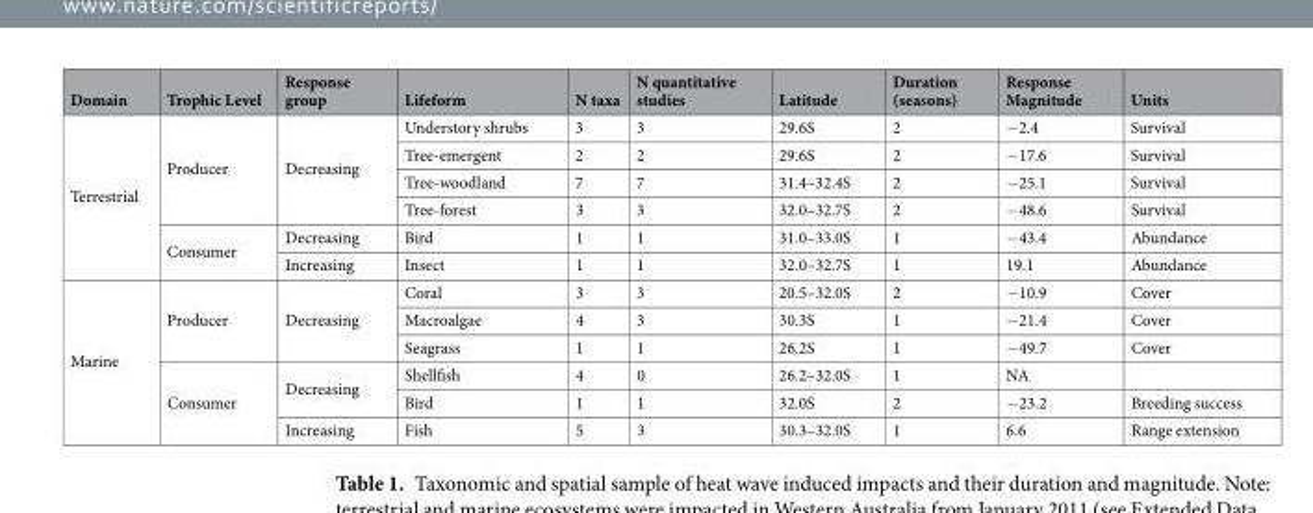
<table><thead><tr><td>Domain</td><td>Trophic Level</td><td>Response group</td><td>Lifeform</td><td>N taxa</td><td>N quantitative studies</td><td>Latitude</td><td>Duration (seasons)</td><td>Response Magnitude</td><td>Units</td></tr></thead><tbody><tr><td rowspan="6">Terrestrial</td><td rowspan="4">Producer</td><td rowspan="4">Decreasing</td><td>Understory shrubs</td><td>3</td><td>3</td><td>29.6S</td><td>2</td><td>−2.4</td><td>Survival</td></tr><tr><td>Tree-emergent</td><td>2</td><td>2</td><td>29.6S</td><td>2</td><td>−17.6</td><td>Survival</td></tr><tr><td>Tree-woodland</td><td>7</td><td>7</td><td>31.4–32.4S</td><td>2</td><td>−25.1</td><td>Survival</td></tr><tr><td>Tree-forest</td><td>3</td><td>3</td><td>32.0–32.7S</td><td>2</td><td>−48.6</td><td>Survival</td></tr><tr><td rowspan="2">Consumer</td><td>Decreasing</td><td>Bird</td><td>1</td><td>1</td><td>31.0–33.0S</td><td>1</td><td>−43.4</td><td>Abundance</td></tr><tr><td>Increasing</td><td>Insect</td><td>1</td><td>1</td><td>32.0–32.7S</td><td>1</td><td>19.1</td><td>Abundance</td></tr><tr><td rowspan="6">Marine</td><td rowspan="3">Producer</td><td rowspan="3">Decreasing</td><td>Coral</td><td>3</td><td>3</td><td>20.5–32.0S</td><td>2</td><td>−10.9</td><td>Cover</td></tr><tr><td>Macroalgae</td><td>4</td><td>3</td><td>30.3S</td><td>1</td><td>−21.4</td><td>Cover</td></tr><tr><td>Seagrass</td><td>1</td><td>1</td><td>26.2S</td><td>1</td><td>−49.7</td><td>Cover</td></tr><tr><td rowspan="3">Consumer</td><td rowspan="2">Decreasing</td><td>Shellfish</td><td>4</td><td>0</td><td>26.2–32.0S</td><td>1</td><td>NA</td><td></td></tr><tr><td>Bird</td><td>1</td><td>1</td><td>32.0S</td><td>2</td><td>−23.2</td><td>Breeding success</td></tr><tr><td>Increasing</td><td>Fish</td><td>5</td><td>3</td><td>30.3–32.0S</td><td>1</td><td>6.6</td><td>Range extension</td></tr></tbody></table>